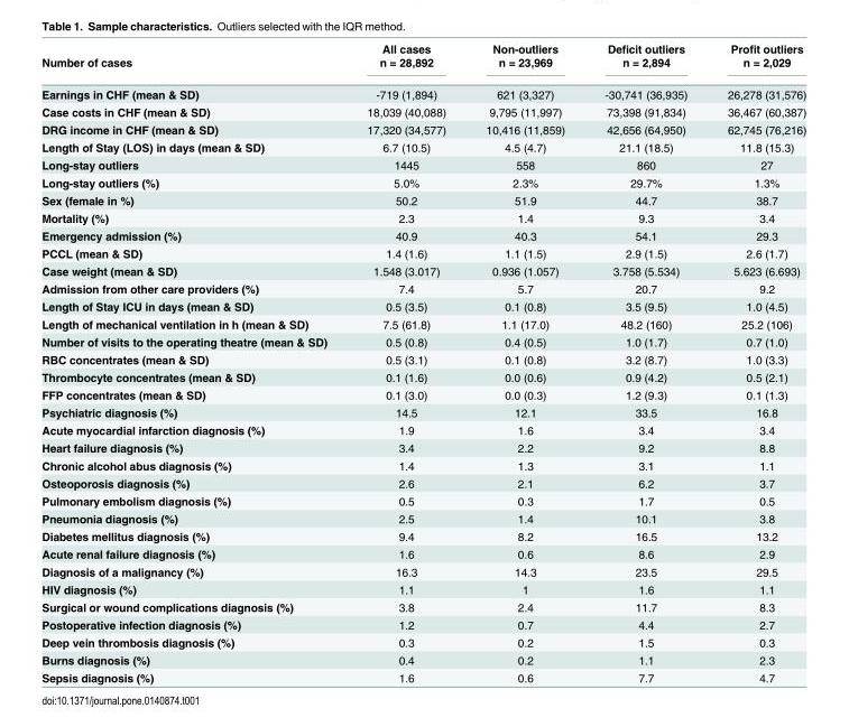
<table><thead><tr><td rowspan="2">Number of cases</td><td rowspan="2">All cases n = 28,892</td><td rowspan="2">Non-outliers n = 23,969</td><td rowspan="2">Deficit outliers n = 2,894</td><td rowspan="2">Profit outliers n = 2,029</td></tr><tr></tr></thead><tbody><tr><td>Earnings in CHF (mean &amp; SD)</td><td>-719 (1,894)</td><td>621 (3,327)</td><td>-30,741 (36,935)</td><td>26,278 (31,576)</td></tr><tr><td>Case costs in CHF (mean &amp; SD)</td><td>18,039 (40,088)</td><td>9,795 (11,997)</td><td>73,398 (91,834)</td><td>36,467 (60,387)</td></tr><tr><td>DRG income in CHF (mean &amp; SD)</td><td>17,320 (34,577)</td><td>10,416 (11,859)</td><td>42,656 (64,950)</td><td>62,745 (76,216)</td></tr><tr><td>Length of Stay (LOS) in days (mean &amp; SD)</td><td>6.7 (10.5)</td><td>4.5 (4.7)</td><td>21.1 (18.5)</td><td>11.8 (15.3)</td></tr><tr><td>Long-stay outliers</td><td>1445</td><td>558</td><td>860</td><td>27</td></tr><tr><td>Long-stay outliers (%)</td><td>5.0%</td><td>2.3%</td><td>29.7%</td><td>1.3%</td></tr><tr><td>Sex (female in %)</td><td>50.2</td><td>51.9</td><td>44.7</td><td>38.7</td></tr><tr><td>Mortality (%)</td><td>2.3</td><td>1.4</td><td>9.3</td><td>3.4</td></tr><tr><td>Emergency admission (%)</td><td>40.9</td><td>40.3</td><td>54.1</td><td>29.3</td></tr><tr><td>PCCL (mean &amp; SD)</td><td>1.4 (1.6)</td><td>1.1 (1.5)</td><td>2.9 (1.5)</td><td>2.6 (1.7)</td></tr><tr><td>Case weight (mean &amp; SD)</td><td>1.548 (3.017)</td><td>0.936 (1.057)</td><td>3.758 (5.534)</td><td>5.623 (6.693)</td></tr><tr><td>Admission from other care providers (%)</td><td>7.4</td><td>5.7</td><td>20.7</td><td>9.2</td></tr><tr><td>Length of Stay ICU in days (mean &amp; SD)</td><td>0.5 (3.5)</td><td>0.1 (0.8)</td><td>3.5 (9.5)</td><td>1.0 (4.5)</td></tr><tr><td>Length of mechanical ventilation in h (mean &amp; SD)</td><td>7.5 (61.8)</td><td>1.1 (17.0)</td><td>48.2 (160)</td><td>25.2 (106)</td></tr><tr><td>Number of visits to the operating theatre (mean &amp; SD)</td><td>0.5 (0.8)</td><td>0.4 (0.5)</td><td>1.0 (1.7)</td><td>0.7 (1.0)</td></tr><tr><td>RBC concentrates (mean &amp; SD)</td><td>0.5 (3.1)</td><td>0.1 (0.8)</td><td>3.2 (8.7)</td><td>1.0 (3.3)</td></tr><tr><td>Thrombocyte concentrates (mean &amp; SD)</td><td>0.1 (1.6)</td><td>0.0 (0.6)</td><td>0.9 (4.2)</td><td>0.5 (2.1)</td></tr><tr><td>FFP concentrates (mean &amp; SD)</td><td>0.1 (3.0)</td><td>0.0 (0.3)</td><td>1.2 (9.3)</td><td>0.1 (1.3)</td></tr><tr><td>Psychiatric diagnosis (%)</td><td>14.5</td><td>12.1</td><td>33.5</td><td>16.8</td></tr><tr><td>Acute myocardial infarction diagnosis (%)</td><td>1.9</td><td>1.6</td><td>3.4</td><td>3.4</td></tr><tr><td>Heart failure diagnosis (%)</td><td>3.4</td><td>2.2</td><td>9.2</td><td>8.8</td></tr><tr><td>Chronic alcohol abus diagnosis (%)</td><td>1.4</td><td>1.3</td><td>3.1</td><td>1.1</td></tr><tr><td>Osteoporosis diagnosis (%)</td><td>2.6</td><td>2.1</td><td>6.2</td><td>3.7</td></tr><tr><td>Pulmonary embolism diagnosis (%)</td><td>0.5</td><td>0.3</td><td>1.7</td><td>0.5</td></tr><tr><td>Pneumonia diagnosis (%)</td><td>2.5</td><td>1.4</td><td>10.1</td><td>3.8</td></tr><tr><td>Diabetes mellitus diagnosis (%)</td><td>9.4</td><td>8.2</td><td>16.5</td><td>13.2</td></tr><tr><td>Acute renal failure diagnosis (%)</td><td>1.6</td><td>0.6</td><td>8.6</td><td>2.9</td></tr><tr><td>Diagnosis of a malignancy (%)</td><td>16.3</td><td>14.3</td><td>23.5</td><td>29.5</td></tr><tr><td>HIV diagnosis (%)</td><td>1.1</td><td>1</td><td>1.6</td><td>1.1</td></tr><tr><td>Surgical or wound complications diagnosis (%)</td><td>3.8</td><td>2.4</td><td>11.7</td><td>8.3</td></tr><tr><td>Postoperative infection diagnosis (%)</td><td>1.2</td><td>0.7</td><td>4.4</td><td>2.7</td></tr><tr><td>Deep vein thrombosis diagnosis (%)</td><td>0.3</td><td>0.2</td><td>1.5</td><td>0.3</td></tr><tr><td>Burns diagnosis (%)</td><td>0.4</td><td>0.2</td><td>1.1</td><td>2.3</td></tr><tr><td>Sepsis diagnosis (%)</td><td>1.6</td><td>0.6</td><td>7.7</td><td>4.7</td></tr></tbody></table>